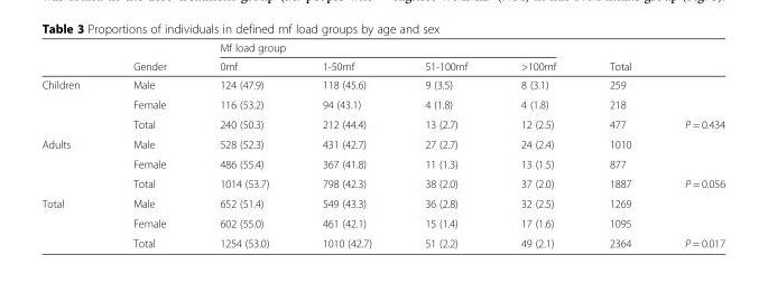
<table><thead><tr><td rowspan="2"></td><td rowspan="2">Gender</td><td colspan="4">Mf load group</td><td rowspan="2">Total</td><td rowspan="2"></td></tr><tr><td>0mf</td><td>1-50mf</td><td>51-100mf</td><td>&gt;100mf</td></tr></thead><tbody><tr><td rowspan="3">Children</td><td>Male</td><td>124 (47.9)</td><td>118 (45.6)</td><td>9 (3.5)</td><td>8 (3.1)</td><td>259</td><td></td></tr><tr><td>Female</td><td>116 (53.2)</td><td>94 (43.1)</td><td>4 (1.8)</td><td>4 (1.8)</td><td>218</td><td></td></tr><tr><td>Total</td><td>240 (50.3)</td><td>212 (44.4)</td><td>13 (2.7)</td><td>12 (2.5)</td><td>477</td><td>P = 0.434</td></tr><tr><td rowspan="3">Adults</td><td>Male</td><td>528 (52.3)</td><td>431 (42.7)</td><td>27 (2.7)</td><td>24 (2.4)</td><td>1010</td><td></td></tr><tr><td>Female</td><td>486 (55.4)</td><td>367 (41.8)</td><td>11 (1.3)</td><td>13 (1.5)</td><td>877</td><td></td></tr><tr><td>Total</td><td>1014 (53.7)</td><td>798 (42.3)</td><td>38 (2.0)</td><td>37 (2.0)</td><td>1887</td><td>P = 0.056</td></tr><tr><td rowspan="3">Total</td><td>Male</td><td>652 (51.4)</td><td>549 (43.3)</td><td>36 (2.8)</td><td>32 (2.5)</td><td>1269</td><td></td></tr><tr><td>Female</td><td>602 (55.0)</td><td>461 (42.1)</td><td>15 (1.4)</td><td>17 (1.6)</td><td>1095</td><td></td></tr><tr><td>Total</td><td>1254 (53.0)</td><td>1010 (42.7)</td><td>51 (2.2)</td><td>49 (2.1)</td><td>2364</td><td>P = 0.017</td></tr></tbody></table>